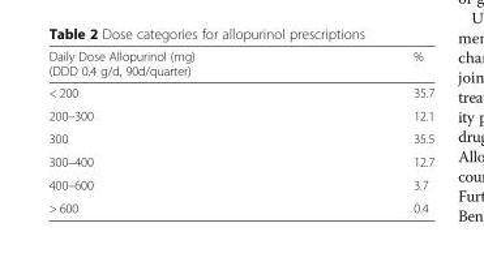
<table><thead><tr><td>Daily Dose Allopurinol (mg) (DDD 0.4 g/d, 90d/quarter)</td><td>%</td></tr></thead><tbody><tr><td>&lt; 200</td><td>35.7</td></tr><tr><td>200–300</td><td>12.1</td></tr><tr><td>300</td><td>35.5</td></tr><tr><td>300–400</td><td>12.7</td></tr><tr><td>400–600</td><td>3.7</td></tr><tr><td>&gt; 600</td><td>0.4</td></tr></tbody></table>